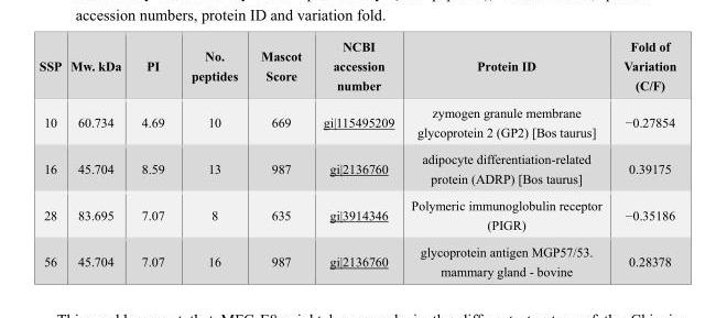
<table><thead><tr><td>SSP</td><td>Mw. kDa</td><td>PI</td><td>No. peptides</td><td>Mascot Score</td><td>NCBI accession number</td><td>Protein ID</td><td>Fold of Variation (C/F)</td></tr></thead><tbody><tr><td>10</td><td>60.734</td><td>4.69</td><td>10</td><td>669</td><td>gi|115495209</td><td>zymogen granule membrane glycoprotein 2 (GP2) [Bos taurus]</td><td>−0.27854</td></tr><tr><td>16</td><td>45.704</td><td>8.59</td><td>13</td><td>987</td><td>gi|2136760</td><td>adipocyte differentiation-related protein (ADRP) [Bos taurus]</td><td>0.39175</td></tr><tr><td>28</td><td>83.695</td><td>7.07</td><td>8</td><td>635</td><td>gi|3914346</td><td>Polymeric immunoglobulin receptor (PIGR)</td><td>−0.35186</td></tr><tr><td>56</td><td>45.704</td><td>7.07</td><td>16</td><td>987</td><td>gi|2136760</td><td>glycoprotein antigen MGP57/53. mammary gland - bovine</td><td>0.28378</td></tr></tbody></table>